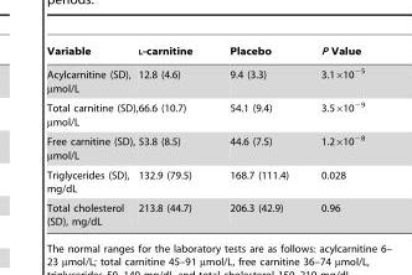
<table><thead><tr><td>Variable</td><td>L-carnitine</td><td>Placebo</td><td>P Value</td></tr></thead><tbody><tr><td>Acylcarnitine (SD), µmol/L</td><td>12.8 (4.6)</td><td>9.4 (3.3)</td><td>3.1×10<sup>−5</sup></td></tr><tr><td>Total carnitine (SD), µmol/L</td><td>66.6 (10.7)</td><td>54.1 (9.4)</td><td>3.5×10<sup>−9</sup></td></tr><tr><td>Free carnitine (SD), µmol/L</td><td>53.8 (8.5)</td><td>44.6 (7.5)</td><td>1.2×10<sup>−8</sup></td></tr><tr><td>Triglycerides (SD), mg/dL</td><td>132.9 (79.5)</td><td>168.7 (111.4)</td><td>0.028</td></tr><tr><td>Total cholesterol (SD), mg/dL</td><td>213.8 (44.7)</td><td>206.3 (42.9)</td><td>0.96</td></tr></tbody></table>